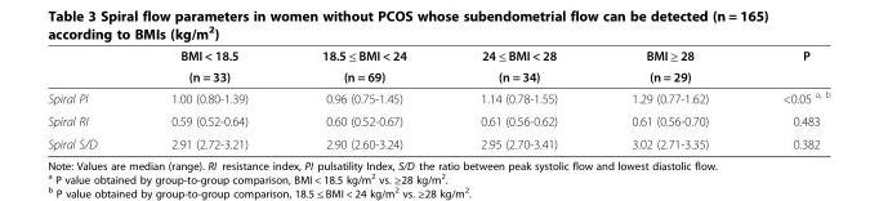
<table><thead><tr><td rowspan="2"></td><td rowspan="2">BMI &lt; 18.5 (n = 33)</td><td rowspan="2">18.5 ≤ BMI &lt; 24 (n = 69)</td><td rowspan="2">24 ≤ BMI &lt; 28 (n = 34)</td><td rowspan="2">BMI ≥ 28 (n = 29)</td><td rowspan="2">P</td></tr><tr></tr></thead><tbody><tr><td>Spiral PI</td><td>1.00 (0.80-1.39)</td><td>0.96 (0.75-1.45)</td><td>1.14 (0.78-1.55)</td><td>1.29 (0.77-1.62)</td><td>&lt;0.05 <sup>a, b</sup></td></tr><tr><td>Spiral RI</td><td>0.59 (0.52-0.64)</td><td>0.60 (0.52-0.67)</td><td>0.61 (0.56-0.62)</td><td>0.61 (0.56-0.70)</td><td>0.483</td></tr><tr><td>Spiral S/D</td><td>2.91 (2.72-3.21)</td><td>2.90 (2.60-3.24)</td><td>2.95 (2.70-3.41)</td><td>3.02 (2.71-3.35)</td><td>0.382</td></tr></tbody></table>